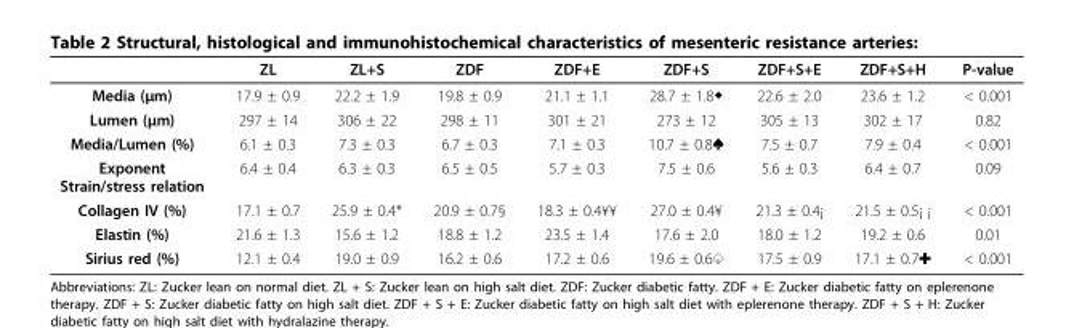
<table><thead><tr><td></td><td>ZL</td><td>ZL+S</td><td>ZDF</td><td>ZDF+E</td><td>ZDF+S</td><td>ZDF+S+E</td><td>ZDF+S+H</td><td>P-value</td></tr></thead><tbody><tr><td>Media (μm)</td><td>17.9 ± 0.9</td><td>22.2 ± 1.9</td><td>19.8 ± 0.9</td><td>21.1 ± 1.1</td><td>28.7 ± 1.8◆</td><td>22.6 ± 2.0</td><td>23.6 ± 1.2</td><td>&lt; 0.001</td></tr><tr><td>Lumen (μm)</td><td>297 ± 14</td><td>306 ± 22</td><td>298 ± 11</td><td>301 ± 21</td><td>273 ± 12</td><td>305 ± 13</td><td>302 ± 17</td><td>0.82</td></tr><tr><td>Media/Lumen (%)</td><td>6.1 ± 0.3</td><td>7.3 ± 0.3</td><td>6.7 ± 0.3</td><td>7.1 ± 0.3</td><td>10.7 ± 0.8♠</td><td>7.5 ± 0.7</td><td>7.9 ± 0.4</td><td>&lt; 0.001</td></tr><tr><td>Exponent Strain/stress relation</td><td>6.4 ± 0.4</td><td>6.3 ± 0.3</td><td>6.5 ± 0.5</td><td>5.7 ± 0.3</td><td>7.5 ± 0.6</td><td>5.6 ± 0.3</td><td>6.4 ± 0.7</td><td>0.09</td></tr><tr><td>Collagen IV (%)</td><td>17.1 ± 0.7</td><td>25.9 ± 0.4*</td><td>20.9 ± 0.7§</td><td>18.3 ± 0.4¥¥</td><td>27.0 ± 0.4¥</td><td>21.3 ± 0.4¡</td><td>21.5 ± 0.5¡ ¡</td><td>&lt; 0.001</td></tr><tr><td>Elastin (%)</td><td>21.6 ± 1.3</td><td>15.6 ± 1.2</td><td>18.8 ± 1.2</td><td>23.5 ± 1.4</td><td>17.6 ± 2.0</td><td>18.0 ± 1.2</td><td>19.2 ± 0.6</td><td>0.01</td></tr><tr><td>Sirius red (%)</td><td>12.1 ± 0.4</td><td>19.0 ± 0.9</td><td>16.2 ± 0.6</td><td>17.2 ± 0.6</td><td>19.6 ± 0.6♤</td><td>17.5 ± 0.9</td><td>17.1 ± 0.7✚</td><td>&lt; 0.001</td></tr></tbody></table>